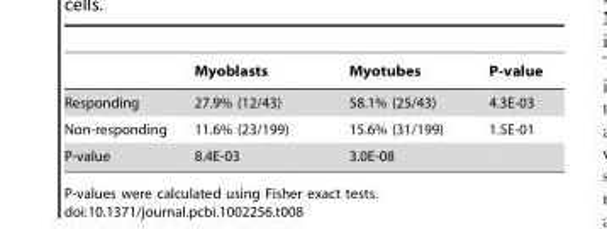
<table><thead><tr><td></td><td>Myoblasts</td><td>Myotubes</td><td>P-value</td></tr></thead><tbody><tr><td>Responding</td><td>27.9% (12/43)</td><td>58.1% (25/43)</td><td>4.3E-03</td></tr><tr><td>Non-responding</td><td>11.6% (23/199)</td><td>15.6% (31/199)</td><td>1.5E-01</td></tr><tr><td>P-value</td><td>8.4E-03</td><td>3.0E-08</td><td></td></tr></tbody></table>